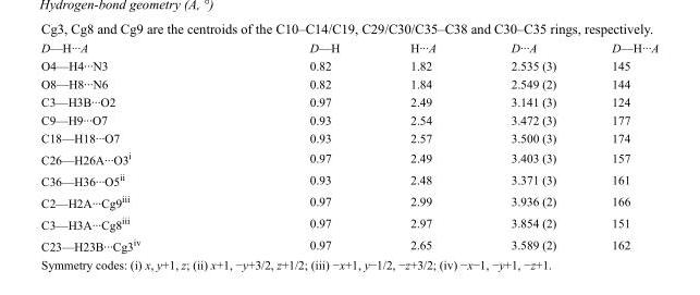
<table><tbody><tr><td>D—H···A</td><td>D—H</td><td>H···A</td><td>D···A</td><td>D—H···A</td></tr><tr><td>O4—H4···N3</td><td>0.82</td><td>1.82</td><td>2.535 (3)</td><td>145</td></tr><tr><td>O8—H8···N6</td><td>0.82</td><td>1.84</td><td>2.549 (2)</td><td>144</td></tr><tr><td>C3—H3B···O2</td><td>0.97</td><td>2.49</td><td>3.141 (3)</td><td>124</td></tr><tr><td>C9—H9···O7</td><td>0.93</td><td>2.54</td><td>3.472 (3)</td><td>177</td></tr><tr><td>C18—H18···O7</td><td>0.93</td><td>2.57</td><td>3.500 (3)</td><td>174</td></tr><tr><td>C26—H26A···O3<sup>i</sup></td><td>0.97</td><td>2.49</td><td>3.403 (3)</td><td>157</td></tr><tr><td>C36—H36···O5<sup>ii</sup></td><td>0.93</td><td>2.48</td><td>3.371 (3)</td><td>161</td></tr><tr><td>C2—H2A···Cg9<sup>iii</sup></td><td>0.97</td><td>2.99</td><td>3.936 (2)</td><td>166</td></tr><tr><td>C3—H3A···Cg8<sup>iii</sup></td><td>0.97</td><td>2.97</td><td>3.854 (2)</td><td>151</td></tr><tr><td>C23—H23B···Cg3<sup>iv</sup></td><td>0.97</td><td>2.65</td><td>3.589 (2)</td><td>162</td></tr></tbody></table>